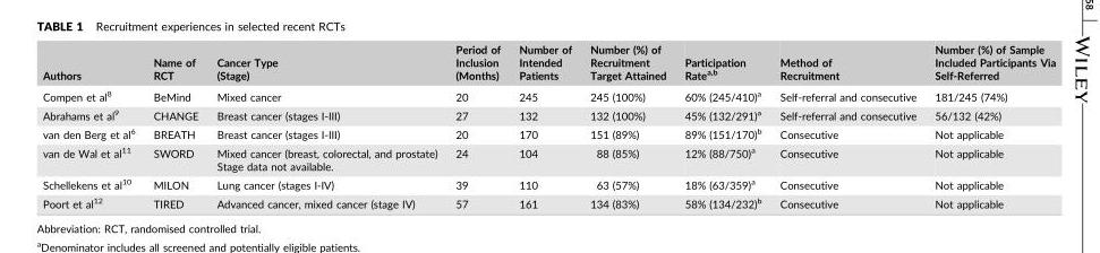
<table><thead><tr><td>Authors</td><td>Name of RCT</td><td>Cancer Type (Stage)</td><td>Period of Inclusion (Months)</td><td>Number of Intended Patients</td><td>Number (%) of Recruitment Target Attained</td><td>Participation Rate<sup>a,</sup>b</td><td>Method of Recruitment</td><td>Number (%) of Sample Included Participants Via Self‐Referred</td></tr></thead><tbody><tr><td>Compen et al<sup>8</sup></td><td>BeMind</td><td>Mixed cancer</td><td>20</td><td>245</td><td>245 (100%)</td><td>60% (245/410)<sup>a</sup></td><td>Self‐referral and consecutive</td><td>181/245 (74%)</td></tr><tr><td>Abrahams et al<sup>9</sup></td><td>CHANGE</td><td>Breast cancer (stages I‐III)</td><td>27</td><td>132</td><td>132 (100%)</td><td>45% (132/291)<sup>a</sup></td><td>Self‐referral and consecutive</td><td>56/132 (42%)</td></tr><tr><td>van den Berg et al<sup>6</sup></td><td>BREATH</td><td>Breast cancer (stages I‐III)</td><td>20</td><td>170</td><td>151 (89%)</td><td>89% (151/170)<sup>b</sup></td><td>Consecutive</td><td>Not applicable</td></tr><tr><td>van de Wal et al<sup>11</sup></td><td>SWORD</td><td>Mixed cancer (breast, colorectal, and prostate) Stage data not available.</td><td>24</td><td>104</td><td>88 (85%)</td><td>12% (88/750)<sup>a</sup></td><td>Consecutive</td><td>Not applicable</td></tr><tr><td>Schellekens et al<sup>10</sup></td><td>MILON</td><td>Lung cancer (stages I‐IV)</td><td>39</td><td>110</td><td>63 (57%)</td><td>18% (63/359)<sup>a</sup></td><td>Consecutive</td><td>Not applicable</td></tr><tr><td>Poort et al<sup>12</sup></td><td>TIRED</td><td>Advanced cancer, mixed cancer (stage IV)</td><td>57</td><td>161</td><td>134 (83%)</td><td>58% (134/232)<sup>b</sup></td><td>Consecutive</td><td>Not applicable</td></tr></tbody></table>